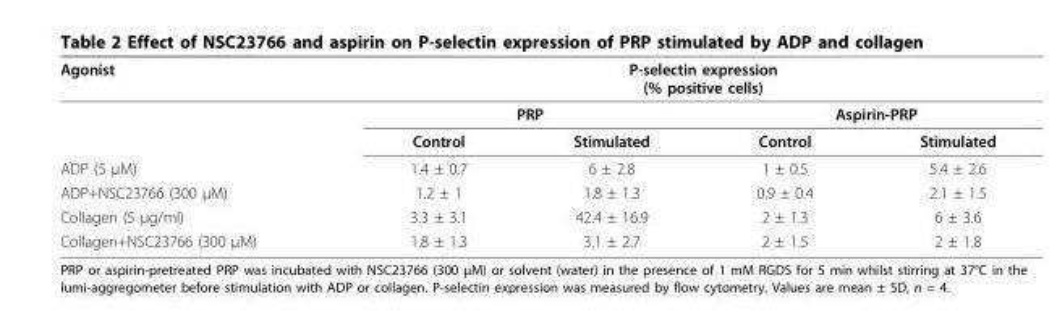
<table><thead><tr><td rowspan="3">Agonist</td><td colspan="4">P-selectin expression (% positive cells)</td></tr><tr><td colspan="2">PRP</td><td colspan="2">Aspirin-PRP</td></tr><tr><td>Control</td><td>Stimulated</td><td>Control</td><td>Stimulated</td></tr></thead><tbody><tr><td>ADP (5 μM)</td><td>1.4 ± 0.7</td><td>6 ± 2.8</td><td>1 ± 0.5</td><td>5.4 ± 2.6</td></tr><tr><td>ADP+NSC23766 (300 μM)</td><td>1.2 ± 1</td><td>1.8 ± 1.3</td><td>0.9 ± 0.4</td><td>2.1 ± 1.5</td></tr><tr><td>Collagen (5 μg/ml)</td><td>3.3 ± 3.1</td><td>42.4 ± 16.9</td><td>2 ± 1.3</td><td>6 ± 3.6</td></tr><tr><td>Collagen+NSC23766 (300 μM)</td><td>1.8 ± 1.3</td><td>3.1 ± 2.7</td><td>2 ± 1.5</td><td>2 ± 1.8</td></tr></tbody></table>